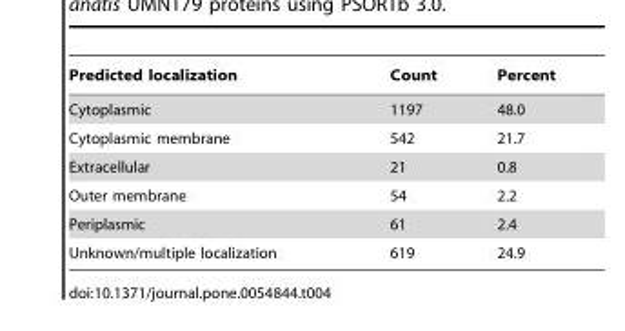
<table><thead><tr><td>Predicted localization</td><td>Count</td><td>Percent</td></tr></thead><tbody><tr><td>Cytoplasmic</td><td>1197</td><td>48.0</td></tr><tr><td>Cytoplasmic membrane</td><td>542</td><td>21.7</td></tr><tr><td>Extracellular</td><td>21</td><td>0.8</td></tr><tr><td>Outer membrane</td><td>54</td><td>2.2</td></tr><tr><td>Periplasmic</td><td>61</td><td>2.4</td></tr><tr><td>Unknown/multiple localization</td><td>619</td><td>24.9</td></tr></tbody></table>